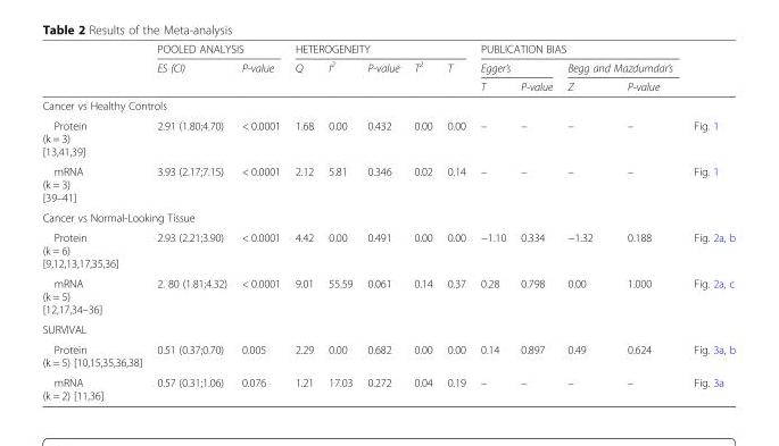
<table><thead><tr><td rowspan="3"></td><td colspan="2">POOLED ANALYSIS</td><td colspan="5">HETEROGENEITY</td><td colspan="4">PUBLICATION BIAS</td><td rowspan="3"></td></tr><tr><td rowspan="2">ES (CI)</td><td rowspan="2">P-value</td><td rowspan="2">Q</td><td rowspan="2">I<sup>2</sup></td><td rowspan="2">P-value</td><td rowspan="2">T<sup>2</sup></td><td rowspan="2">T</td><td colspan="2">Egger’s</td><td colspan="2">Begg and Mazdumdar’s</td></tr><tr><td>T</td><td>P-value</td><td>Z</td><td>P-value</td></tr></thead><tbody><tr><td colspan="13">Cancer vs Healthy Controls</td></tr><tr><td>Protein (k = 3) [13,41,39]</td><td>2.91 (1.80;4.70)</td><td>&lt; 0.0001</td><td>1.68</td><td>0.00</td><td>0.432</td><td>0.00</td><td>0.00</td><td>–</td><td>–</td><td>–</td><td>–</td><td>Fig. 1</td></tr><tr><td>mRNA (k = 3) [39–41]</td><td>3.93 (2.17;7.15)</td><td>&lt; 0.0001</td><td>2.12</td><td>5.81</td><td>0.346</td><td>0.02</td><td>0.14</td><td>–</td><td>–</td><td>–</td><td>–</td><td>Fig. 1</td></tr><tr><td colspan="13">Cancer vs Normal-Looking Tissue</td></tr><tr><td>Protein (k = 6) [9,12,13,17,35,36]</td><td>2.93 (2.21;3.90)</td><td>&lt; 0.0001</td><td>4.42</td><td>0.00</td><td>0.491</td><td>0.00</td><td>0.00</td><td>−1.10</td><td>0.334</td><td>−1.32</td><td>0.188</td><td>Fig. 2a, b</td></tr><tr><td>mRNA (k = 5) [12,17,34–36]</td><td>2. 80 (1.81;4.32)</td><td>&lt; 0.0001</td><td>9.01</td><td>55.59</td><td>0.061</td><td>0.14</td><td>0.37</td><td>0.28</td><td>0.798</td><td>0.00</td><td>1.000</td><td>Fig. 2a, c</td></tr><tr><td colspan="13">SURVIVAL</td></tr><tr><td>Protein (k = 5) [10,15,35,36,38]</td><td>0.51 (0.37;0.70)</td><td>0.005</td><td>2.29</td><td>0.00</td><td>0.682</td><td>0.00</td><td>0.00</td><td>0.14</td><td>0.897</td><td>0.49</td><td>0.624</td><td>Fig. 3a, b</td></tr><tr><td>mRNA (k = 2) [11,36]</td><td>0.57 (0.31;1.06)</td><td>0.076</td><td>1.21</td><td>17.03</td><td>0.272</td><td>0.04</td><td>0.19</td><td>–</td><td>–</td><td>–</td><td>–</td><td>Fig. 3a</td></tr></tbody></table>